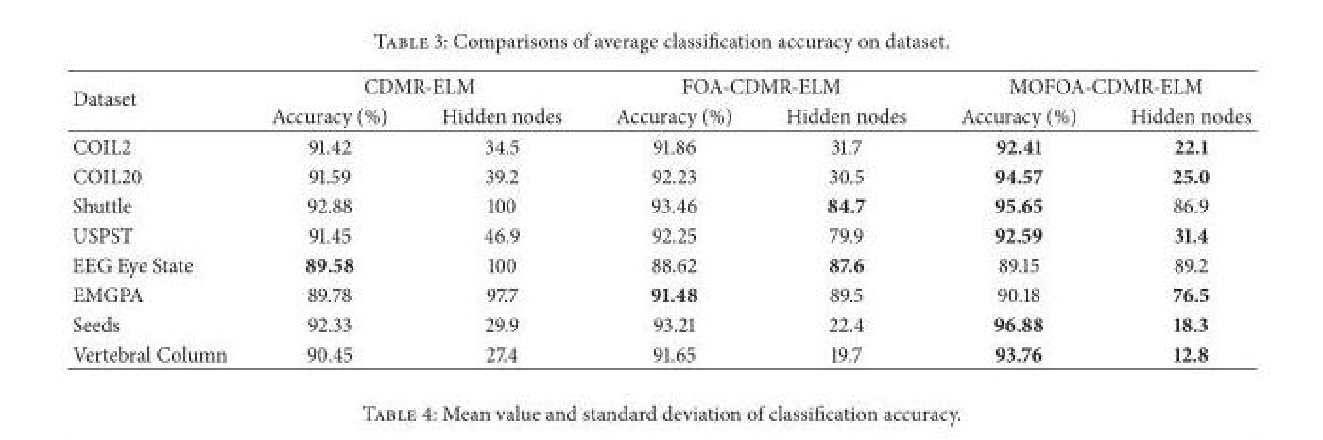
<table><thead><tr><td rowspan="2">Dataset</td><td colspan="2">CDMR-ELM</td><td colspan="2">FOA-CDMR-ELM</td><td colspan="2">MOFOA-CDMR-ELM</td></tr><tr><td>Accuracy (%)</td><td>Hidden nodes</td><td>Accuracy (%)</td><td>Hidden nodes</td><td>Accuracy (%)</td><td>Hidden nodes</td></tr></thead><tbody><tr><td>COIL2</td><td>91.42</td><td>34.5</td><td>91.86</td><td>31.7</td><td>92.41</td><td>22.1</td></tr><tr><td>COIL20</td><td>91.59</td><td>39.2</td><td>92.23</td><td>30.5</td><td>94.57</td><td>25.0</td></tr><tr><td>Shuttle</td><td>92.88</td><td>100</td><td>93.46</td><td>84.7</td><td>95.65</td><td>86.9</td></tr><tr><td>USPST</td><td>91.45</td><td>46.9</td><td>92.25</td><td>79.9</td><td>92.59</td><td>31.4</td></tr><tr><td>EEG Eye State</td><td>89.58</td><td>100</td><td>88.62</td><td>87.6</td><td>89.15</td><td>89.2</td></tr><tr><td>EMGPA</td><td>89.78</td><td>97.7</td><td>91.48</td><td>89.5</td><td>90.18</td><td>76.5</td></tr><tr><td>Seeds</td><td>92.33</td><td>29.9</td><td>93.21</td><td>22.4</td><td>96.88</td><td>18.3</td></tr><tr><td>Vertebral Column</td><td>90.45</td><td>27.4</td><td>91.65</td><td>19.7</td><td>93.76</td><td>12.8</td></tr></tbody></table>